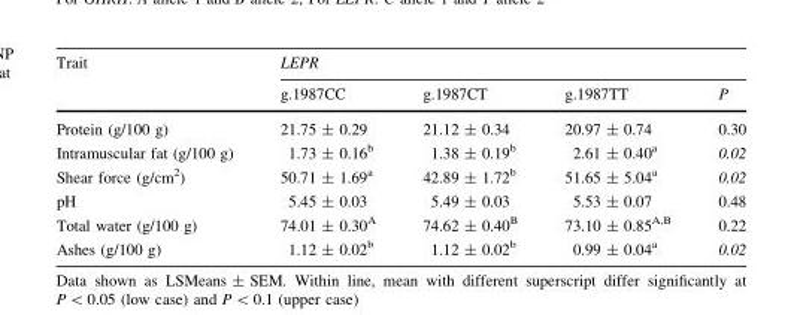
<table><thead><tr><td rowspan="2">Trait</td><td colspan="4">LEPR</td></tr><tr><td>g.1987CC</td><td>g.1987CT</td><td>g.1987TT</td><td>P</td></tr></thead><tbody><tr><td>Protein (g/100 g)</td><td>21.75 ± 0.29</td><td>21.12 ± 0.34</td><td>20.97 ± 0.74</td><td>0.30</td></tr><tr><td>Intramuscular fat (g/100 g)</td><td>1.73 ± 0.16<sup>b</sup></td><td>1.38 ± 0.19<sup>b</sup></td><td>2.61 ± 0.40<sup>a</sup></td><td>0.02</td></tr><tr><td>Shear force (g/cm<sup>2</sup>)</td><td>50.71 ± 1.69<sup>a</sup></td><td>42.89 ± 1.72<sup>b</sup></td><td>51.65 ± 5.04<sup>a</sup></td><td>0.02</td></tr><tr><td>pH</td><td>5.45 ± 0.03</td><td>5.49 ± 0.03</td><td>5.53 ± 0.07</td><td>0.48</td></tr><tr><td>Total water (g/100 g)</td><td>74.01 ± 0.30<sup>A</sup></td><td>74.62 ± 0.40<sup>B</sup></td><td>73.10 ± 0.85<sup>A,B</sup></td><td>0.22</td></tr><tr><td>Ashes (g/100 g)</td><td>1.12 ± 0.02<sup>b</sup></td><td>1.12 ± 0.02<sup>b</sup></td><td>0.99 ± 0.04<sup>a</sup></td><td>0.02</td></tr></tbody></table>